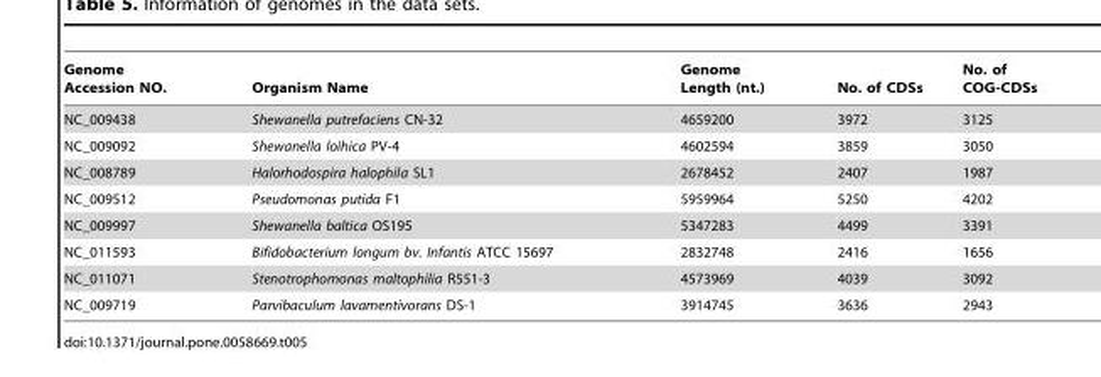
<table><thead><tr><td>Genome Accession NO.</td><td>Organism Name</td><td>Genome Length (nt.)</td><td>No. of CDSs</td><td>No. of COG-CDSs</td></tr></thead><tbody><tr><td>NC_009438</td><td>Shewanella putrefaciens CN-32</td><td>4659200</td><td>3972</td><td>3125</td></tr><tr><td>NC_009092</td><td>Shewanella loihica PV-4</td><td>4602594</td><td>3859</td><td>3050</td></tr><tr><td>NC_008789</td><td>Halorhodospira halophila SL1</td><td>2678452</td><td>2407</td><td>1987</td></tr><tr><td>NC_009512</td><td>Pseudomonas putida F1</td><td>5959964</td><td>5250</td><td>4202</td></tr><tr><td>NC_009997</td><td>Shewanella baltica OS195</td><td>5347283</td><td>4499</td><td>3391</td></tr><tr><td>NC_011593</td><td>Bifidobacterium longum bv. Infantis ATCC 15697</td><td>2832748</td><td>2416</td><td>1656</td></tr><tr><td>NC_011071</td><td>Stenotrophomonas maltophilia R551-3</td><td>4573969</td><td>4039</td><td>3092</td></tr><tr><td>NC_009719</td><td>Parvibaculum lavamentivorans DS-1</td><td>3914745</td><td>3636</td><td>2943</td></tr></tbody></table>